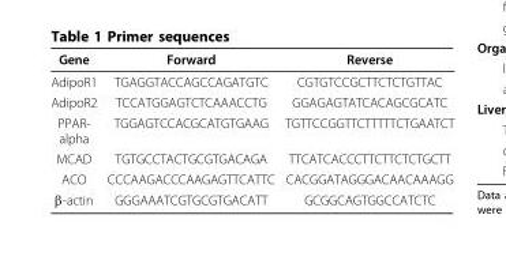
<table><thead><tr><td>Gene</td><td>Forward</td><td>Reverse</td></tr></thead><tbody><tr><td>AdipoR1</td><td>TGAGGTACCAGCCAGATGTC</td><td>CGTGTCCGCTTCTCTGTTAC</td></tr><tr><td>AdipoR2</td><td>TCCATGGAGTCTCAAACCTG</td><td>GGAGAGTATCACAGCGCATC</td></tr><tr><td>PPAR- alpha</td><td>TGGAGTCCACGCATGTGAAG</td><td>TGTTCCGGTTCTTTTTCTGAATCT</td></tr><tr><td>MCAD</td><td>TGTGCCTACTGCGTGACAGA</td><td>TTCATCACCCTTCTTCTCTGCTT</td></tr><tr><td>ACO</td><td>CCCAAGACCCAAGAGTTCATTC</td><td>CACGGATAGGGACAACAAAGG</td></tr><tr><td>β-actin</td><td>GGGAAATCGTGCGTGACATT</td><td>GCGGCAGTGGCCATCTC</td></tr></tbody></table>